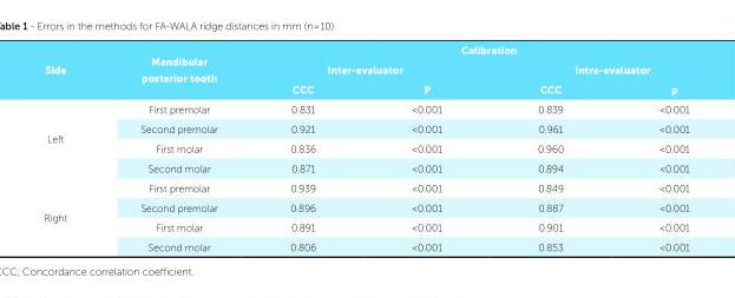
<table><tbody><tr><td rowspan="3">Side</td><td rowspan="3">Mandibular posterior tooth</td><td colspan="4">Calibration</td></tr><tr><td colspan="2">Inter-evaluator</td><td colspan="2">Intra-evaluator</td></tr><tr><td>CCC</td><td>P</td><td>CCC</td><td>p</td></tr><tr><td rowspan="4">Left</td><td>First premolar</td><td>0.831</td><td>&lt;0.001</td><td>0.839</td><td>&lt;0.001</td></tr><tr><td>Second premolar</td><td>0.921</td><td>&lt;0.001</td><td>0.961</td><td>&lt;0.001</td></tr><tr><td>First molar</td><td>0.836</td><td>&lt;0.001</td><td>0.960</td><td>&lt;0.001</td></tr><tr><td>Second molar</td><td>0.871</td><td>&lt;0.001</td><td>0.894</td><td>&lt;0.001</td></tr><tr><td rowspan="4">Right</td><td>First premolar</td><td>0.939</td><td>&lt;0.001</td><td>0.849</td><td>&lt;0.001</td></tr><tr><td>Second premolar</td><td>0.896</td><td>&lt;0.001</td><td>0.887</td><td>&lt;0.001</td></tr><tr><td>First molar</td><td>0.891</td><td>&lt;0.001</td><td>0.901</td><td>&lt;0.001</td></tr><tr><td>Second molar</td><td>0.806</td><td>&lt;0.001</td><td>0.853</td><td>&lt;0.001</td></tr></tbody></table>